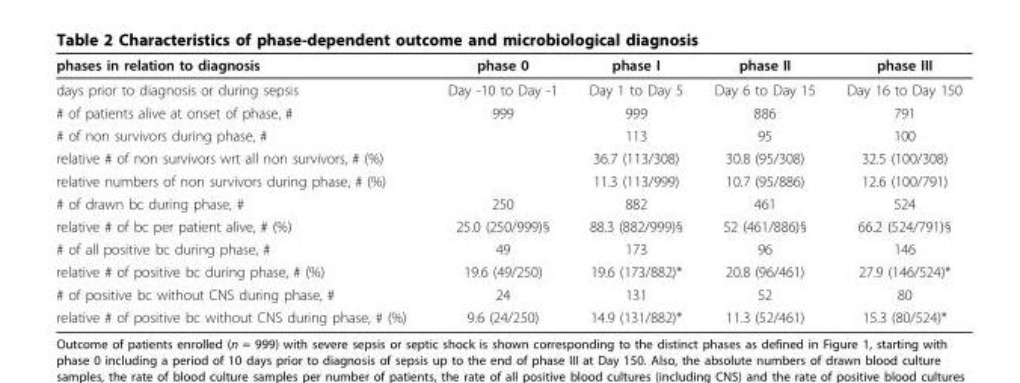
<table><thead><tr><td>phases in relation to diagnosis</td><td>phase 0</td><td>phase I</td><td>phase II</td><td>phase III</td></tr></thead><tbody><tr><td>days prior to diagnosis or during sepsis</td><td>Day -10 to Day -1</td><td>Day 1 to Day 5</td><td>Day 6 to Day 15</td><td>Day 16 to Day 150</td></tr><tr><td># of patients alive at onset of phase, #</td><td>999</td><td>999</td><td>886</td><td>791</td></tr><tr><td># of non survivors during phase, #</td><td></td><td>113</td><td>95</td><td>100</td></tr><tr><td>relative # of non survivors wrt all non survivors, # (%)</td><td></td><td>36.7 (113/308)</td><td>30.8 (95/308)</td><td>32.5 (100/308)</td></tr><tr><td>relative numbers of non survivors during phase, # (%)</td><td></td><td>11.3 (113/999)</td><td>10.7 (95/886)</td><td>12.6 (100/791)</td></tr><tr><td># of drawn bc during phase, #</td><td>250</td><td>882</td><td>461</td><td>524</td></tr><tr><td>relative # of bc per patient alive, # (%)</td><td>25.0 (250/999)§</td><td>88.3 (882/999)§</td><td>52 (461/886)§</td><td>66.2 (524/791)§</td></tr><tr><td># of all positive bc during phase, #</td><td>49</td><td>173</td><td>96</td><td>146</td></tr><tr><td>relative # of positive bc during phase, # (%)</td><td>19.6 (49/250)</td><td>19.6 (173/882)*</td><td>20.8 (96/461)</td><td>27.9 (146/524)*</td></tr><tr><td># of positive bc without CNS during phase, #</td><td>24</td><td>131</td><td>52</td><td>80</td></tr><tr><td>relative # of positive bc without CNS during phase, # (%)</td><td>9.6 (24/250)</td><td>14.9 (131/882)*</td><td>11.3 (52/461)</td><td>15.3 (80/524)*</td></tr></tbody></table>